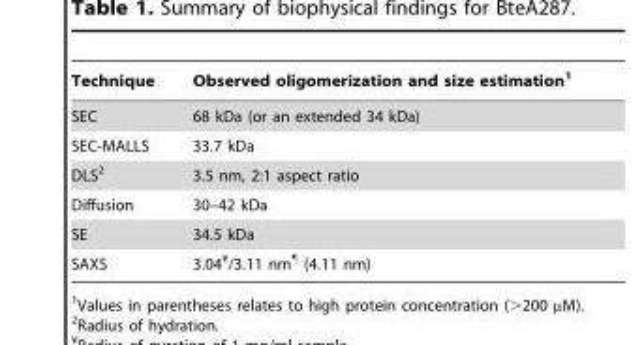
<table><thead><tr><td>Technique</td><td>Observed oligomerization and size estimation<sup>1</sup></td></tr></thead><tbody><tr><td>SEC</td><td>68 kDa (or an extended 34 kDa)</td></tr><tr><td>SEC-MALLS</td><td>33.7 kDa</td></tr><tr><td>DLS<sup>2</sup></td><td>3.5 nm, 2:1 aspect ratio</td></tr><tr><td>Diffusion</td><td>30–42 kDa</td></tr><tr><td>SE</td><td>34.5 kDa</td></tr><tr><td>SAXS</td><td>3.04¥/3.11 nm¶ (4.11 nm)</td></tr></tbody></table>